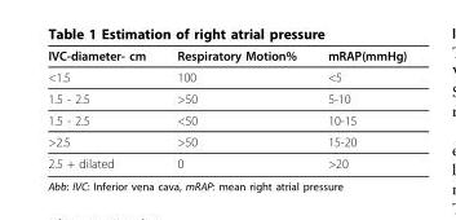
<table><thead><tr><td>IVC-diameter- cm</td><td>Respiratory Motion%</td><td>mRAP(mmHg)</td></tr></thead><tbody><tr><td>&lt;1.5</td><td>100</td><td>&lt;5</td></tr><tr><td>1.5 - 2.5</td><td>&gt;50</td><td>5-10</td></tr><tr><td>1.5 - 2.5</td><td>&lt;50</td><td>10-15</td></tr><tr><td>&gt;2.5</td><td>&gt;50</td><td>15-20</td></tr><tr><td>2.5 + dilated</td><td>0</td><td>&gt;20</td></tr></tbody></table>